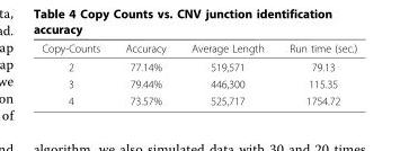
<table><thead><tr><td>Copy-Counts</td><td>Accuracy</td><td>Average Length</td><td>Run time (sec.)</td></tr></thead><tbody><tr><td>2</td><td>77.14%</td><td>519,571</td><td>79.13</td></tr><tr><td>3</td><td>79.44%</td><td>446,300</td><td>115.35</td></tr><tr><td>4</td><td>73.57%</td><td>525,717</td><td>1754.72</td></tr></tbody></table>